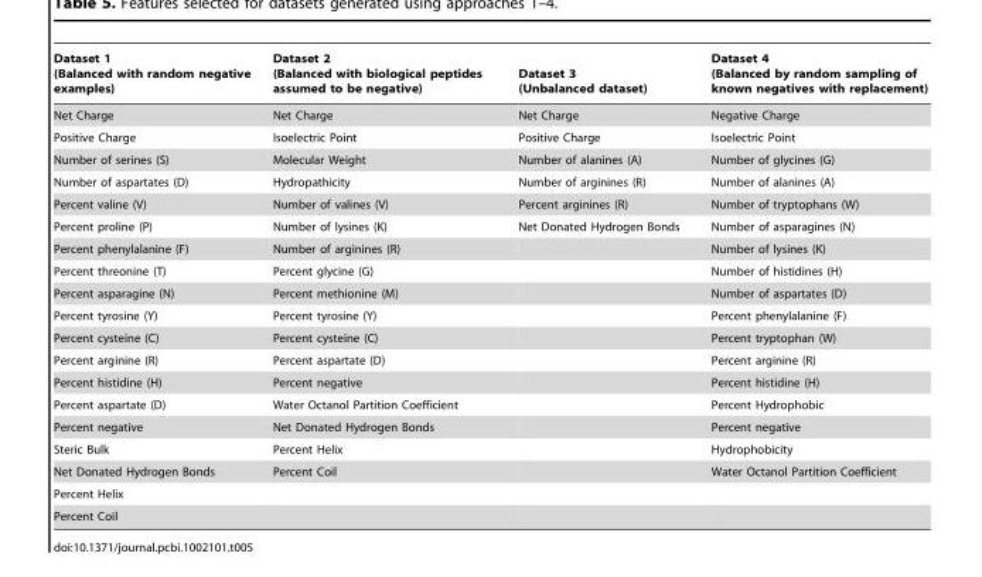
<table><thead><tr><td>Dataset 1 (Balanced with random negative examples)</td><td>Dataset 2 (Balanced with biological peptides assumed to be negative)</td><td>Dataset 3 (Unbalanced dataset)</td><td>Dataset 4 (Balanced by random sampling of known negatives with replacement)</td></tr></thead><tbody><tr><td>Net Charge</td><td>Net Charge</td><td>Net Charge</td><td>Negative Charge</td></tr><tr><td>Positive Charge</td><td>Isoelectric Point</td><td>Positive Charge</td><td>Isoelectric Point</td></tr><tr><td>Number of serines (S)</td><td>Molecular Weight</td><td>Number of alanines (A)</td><td>Number of glycines (G)</td></tr><tr><td>Number of aspartates (D)</td><td>Hydropathicity</td><td>Number of arginines (R)</td><td>Number of alanines (A)</td></tr><tr><td>Percent valine (V)</td><td>Number of valines (V)</td><td>Percent arginines (R)</td><td>Number of tryptophans (W)</td></tr><tr><td>Percent proline (P)</td><td>Number of lysines (K)</td><td>Net Donated Hydrogen Bonds</td><td>Number of asparagines (N)</td></tr><tr><td>Percent phenylalanine (F)</td><td>Number of arginines (R)</td><td></td><td>Number of lysines (K)</td></tr><tr><td>Percent threonine (T)</td><td>Percent glycine (G)</td><td></td><td>Number of histidines (H)</td></tr><tr><td>Percent asparagine (N)</td><td>Percent methionine (M)</td><td></td><td>Number of aspartates (D)</td></tr><tr><td>Percent tyrosine (Y)</td><td>Percent tyrosine (Y)</td><td></td><td>Percent phenylalanine (F)</td></tr><tr><td>Percent cysteine (C)</td><td>Percent cysteine (C)</td><td></td><td>Percent tryptophan (W)</td></tr><tr><td>Percent arginine (R)</td><td>Percent aspartate (D)</td><td></td><td>Percent arginine (R)</td></tr><tr><td>Percent histidine (H)</td><td>Percent negative</td><td></td><td>Percent histidine (H)</td></tr><tr><td>Percent aspartate (D)</td><td>Water Octanol Partition Coefficient</td><td></td><td>Percent Hydrophobic</td></tr><tr><td>Percent negative</td><td>Net Donated Hydrogen Bonds</td><td></td><td>Percent negative</td></tr><tr><td>Steric Bulk</td><td>Percent Helix</td><td></td><td>Hydrophobicity</td></tr><tr><td>Net Donated Hydrogen Bonds</td><td>Percent Coil</td><td></td><td>Water Octanol Partition Coefficient</td></tr><tr><td colspan="4">Percent Helix</td></tr><tr><td>Percent Coil</td><td></td><td></td><td></td></tr></tbody></table>